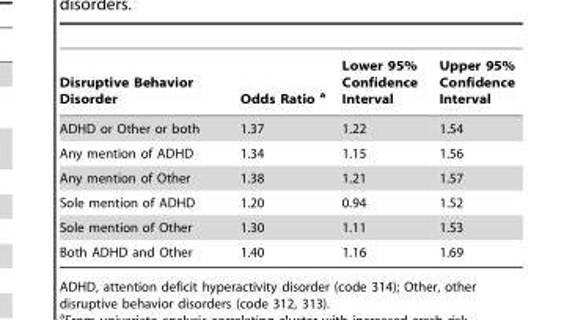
<table><thead><tr><td>Disruptive Behavior Disorder</td><td>Odds Ratio a</td><td>Lower 95% Confidence Interval</td><td>Upper 95% Confidence Interval</td></tr></thead><tbody><tr><td>ADHD or Other or both</td><td>1.37</td><td>1.22</td><td>1.54</td></tr><tr><td>Any mention of ADHD</td><td>1.34</td><td>1.15</td><td>1.56</td></tr><tr><td>Any mention of Other</td><td>1.38</td><td>1.21</td><td>1.57</td></tr><tr><td>Sole mention of ADHD</td><td>1.20</td><td>0.94</td><td>1.52</td></tr><tr><td>Sole mention of Other</td><td>1.30</td><td>1.11</td><td>1.53</td></tr><tr><td>Both ADHD and Other</td><td>1.40</td><td>1.16</td><td>1.69</td></tr></tbody></table>